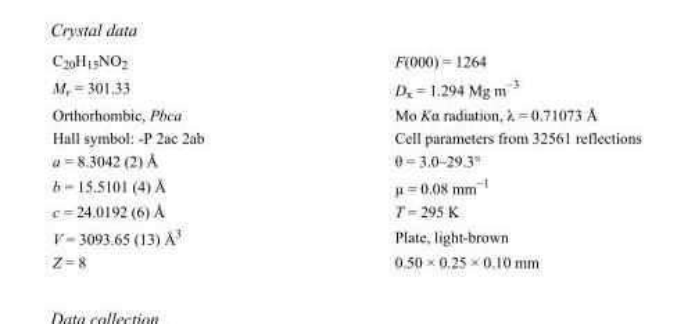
<table><tbody><tr><td>C<sub>20</sub>H<sub>15</sub>NO<sub>2</sub></td><td>F(000) = 1264</td></tr><tr><td>M<sub>r</sub> = 301.33</td><td>D<sub>x</sub> = 1.294 Mg m<sup>−3</sup></td></tr><tr><td>Orthorhombic, Pbca</td><td>Mo Kα radiation, λ = 0.71073 Å</td></tr><tr><td>Hall symbol: -P 2ac 2ab</td><td>Cell parameters from 32561 reflections</td></tr><tr><td>a = 8.3042 (2) Å</td><td>θ = 3.0–29.3°</td></tr><tr><td>b = 15.5101 (4) Å</td><td>µ = 0.08 mm<sup>−1</sup></td></tr><tr><td>c = 24.0192 (6) Å</td><td>T = 295 K</td></tr><tr><td>V = 3093.65 (13) Å<sup>3</sup></td><td>Plate, light-brown</td></tr><tr><td>Z = 8</td><td>0.50 × 0.25 × 0.10 mm</td></tr></tbody></table>